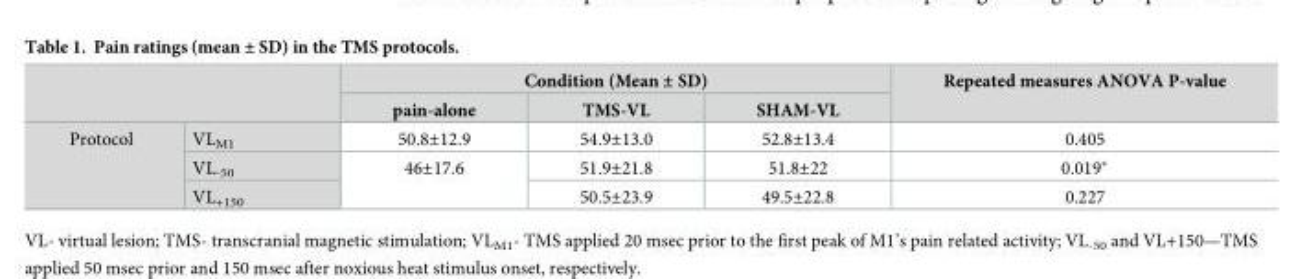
<table><thead><tr><td rowspan="2"></td><td rowspan="2"></td><td colspan="3">Condition (Mean ± SD)</td><td rowspan="2">Repeated measures ANOVA P-value</td></tr><tr><td>pain-alone</td><td>TMS-VL</td><td>SHAM-VL</td></tr></thead><tbody><tr><td rowspan="3">Protocol</td><td>VL<sub>M1</sub></td><td>50.8±12.9</td><td>54.9±13.0</td><td>52.8±13.4</td><td>0.405</td></tr><tr><td>VL<sub>-50</sub></td><td rowspan="2">46±17.6</td><td>51.9±21.8</td><td>51.8±22</td><td>0.019*</td></tr><tr><td>VL<sub>+150</sub></td><td>50.5±23.9</td><td>49.5±22.8</td><td>0.227</td></tr></tbody></table>